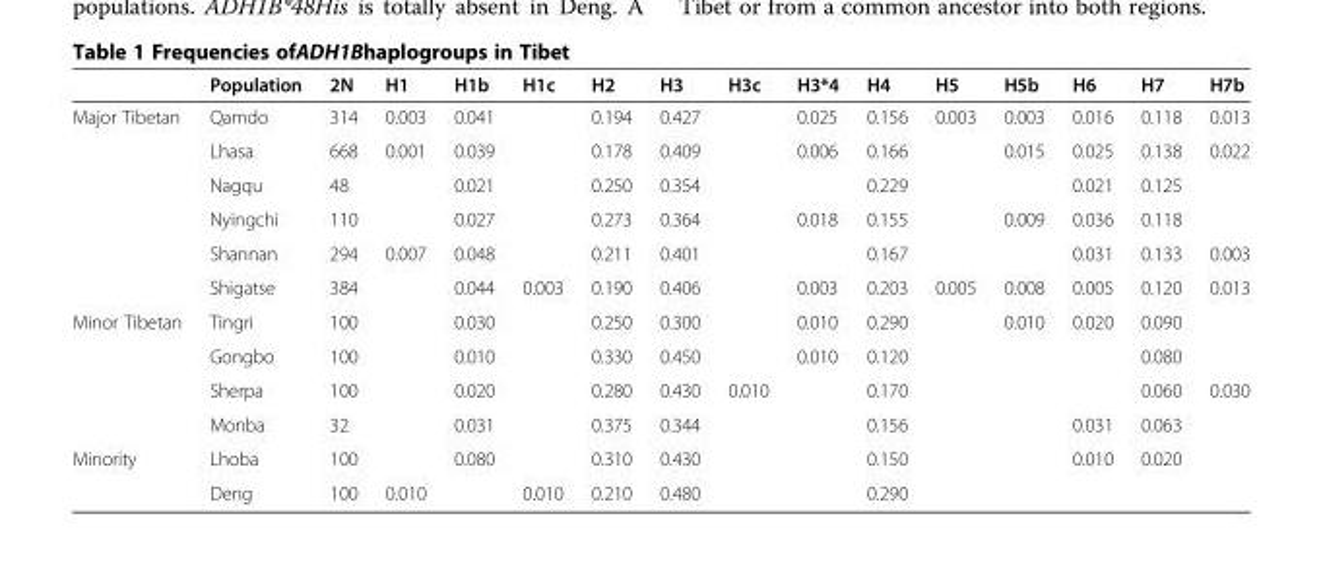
<table><thead><tr><td></td><td>Population</td><td>2N</td><td>H1</td><td>H1b</td><td>H1c</td><td>H2</td><td>H3</td><td>H3c</td><td>H3*4</td><td>H4</td><td>H5</td><td>H5b</td><td>H6</td><td>H7</td><td>H7b</td></tr></thead><tbody><tr><td rowspan="6">Major Tibetan</td><td>Qamdo</td><td>314</td><td>0.003</td><td>0.041</td><td></td><td>0.194</td><td>0.427</td><td></td><td>0.025</td><td>0.156</td><td>0.003</td><td>0.003</td><td>0.016</td><td>0.118</td><td>0.013</td></tr><tr><td>Lhasa</td><td>668</td><td>0.001</td><td>0.039</td><td></td><td>0.178</td><td>0.409</td><td></td><td>0.006</td><td>0.166</td><td></td><td>0.015</td><td>0.025</td><td>0.138</td><td>0.022</td></tr><tr><td>Nagqu</td><td>48</td><td></td><td>0.021</td><td></td><td>0.250</td><td>0.354</td><td></td><td></td><td>0.229</td><td></td><td></td><td>0.021</td><td>0.125</td><td></td></tr><tr><td>Nyingchi</td><td>110</td><td></td><td>0.027</td><td></td><td>0.273</td><td>0.364</td><td></td><td>0.018</td><td>0.155</td><td></td><td>0.009</td><td>0.036</td><td>0.118</td><td></td></tr><tr><td>Shannan</td><td>294</td><td>0.007</td><td>0.048</td><td></td><td>0.211</td><td>0.401</td><td></td><td></td><td>0.167</td><td></td><td></td><td>0.031</td><td>0.133</td><td>0.003</td></tr><tr><td>Shigatse</td><td>384</td><td></td><td>0.044</td><td>0.003</td><td>0.190</td><td>0.406</td><td></td><td>0.003</td><td>0.203</td><td>0.005</td><td>0.008</td><td>0.005</td><td>0.120</td><td>0.013</td></tr><tr><td rowspan="4">Minor Tibetan</td><td>Tingri</td><td>100</td><td></td><td>0.030</td><td></td><td>0.250</td><td>0.300</td><td></td><td>0.010</td><td>0.290</td><td></td><td>0.010</td><td>0.020</td><td>0.090</td><td></td></tr><tr><td>Gongbo</td><td>100</td><td></td><td>0.010</td><td></td><td>0.330</td><td>0.450</td><td></td><td>0.010</td><td>0.120</td><td></td><td></td><td></td><td>0.080</td><td></td></tr><tr><td>Sherpa</td><td>100</td><td></td><td>0.020</td><td></td><td>0.280</td><td>0.430</td><td>0.010</td><td></td><td>0.170</td><td></td><td></td><td></td><td>0.060</td><td>0.030</td></tr><tr><td>Monba</td><td>32</td><td></td><td>0.031</td><td></td><td>0.375</td><td>0.344</td><td></td><td></td><td>0.156</td><td></td><td></td><td>0.031</td><td>0.063</td><td></td></tr><tr><td rowspan="2">Minority</td><td>Lhoba</td><td>100</td><td></td><td>0.080</td><td></td><td>0.310</td><td>0.430</td><td></td><td></td><td>0.150</td><td></td><td></td><td>0.010</td><td>0.020</td><td></td></tr><tr><td>Deng</td><td>100</td><td>0.010</td><td></td><td>0.010</td><td>0.210</td><td>0.480</td><td></td><td></td><td>0.290</td><td></td><td></td><td></td><td></td><td></td></tr></tbody></table>